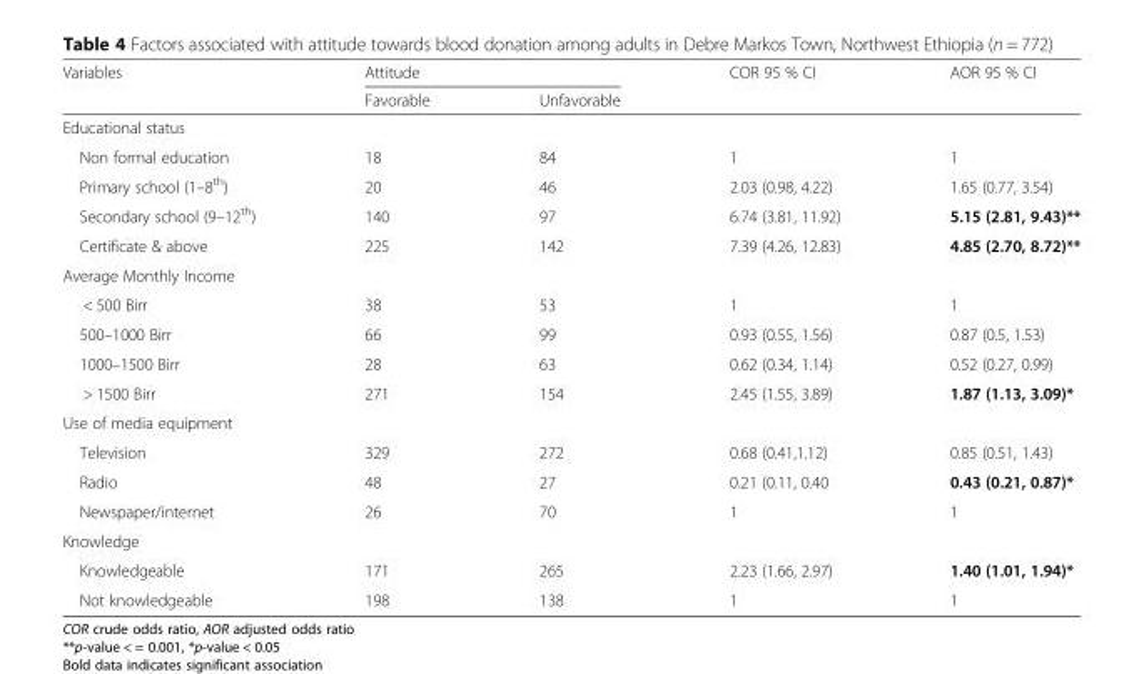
<table><thead><tr><td rowspan="2">Variables</td><td colspan="2">Attitude</td><td rowspan="2">COR 95 % CI</td><td rowspan="2">AOR 95 % CI</td></tr><tr><td>Favorable</td><td>Unfavorable</td></tr></thead><tbody><tr><td colspan="5">Educational status</td></tr><tr><td>Non formal education</td><td>18</td><td>84</td><td>1</td><td>1</td></tr><tr><td>Primary school (1–8<sup>th</sup>)</td><td>20</td><td>46</td><td>2.03 (0.98, 4.22)</td><td>1.65 (0.77, 3.54)</td></tr><tr><td>Secondary school (9–12<sup>th</sup>)</td><td>140</td><td>97</td><td>6.74 (3.81, 11.92)</td><td>5.15 (2.81, 9.43)**</td></tr><tr><td>Certificate &amp; above</td><td>225</td><td>142</td><td>7.39 (4.26, 12.83)</td><td>4.85 (2.70, 8.72)**</td></tr><tr><td colspan="5">Average Monthly Income</td></tr><tr><td>&lt; 500 Birr</td><td>38</td><td>53</td><td>1</td><td>1</td></tr><tr><td>500–1000 Birr</td><td>66</td><td>99</td><td>0.93 (0.55, 1.56)</td><td>0.87 (0.5, 1.53)</td></tr><tr><td>1000–1500 Birr</td><td>28</td><td>63</td><td>0.62 (0.34, 1.14)</td><td>0.52 (0.27, 0.99)</td></tr><tr><td>&gt; 1500 Birr</td><td>271</td><td>154</td><td>2.45 (1.55, 3.89)</td><td>1.87 (1.13, 3.09)*</td></tr><tr><td colspan="5">Use of media equipment</td></tr><tr><td>Television</td><td>329</td><td>272</td><td>0.68 (0.41,1.12)</td><td>0.85 (0.51, 1.43)</td></tr><tr><td>Radio</td><td>48</td><td>27</td><td>0.21 (0.11, 0.40</td><td>0.43 (0.21, 0.87)*</td></tr><tr><td>Newspaper/internet</td><td>26</td><td>70</td><td>1</td><td>1</td></tr><tr><td colspan="5">Knowledge</td></tr><tr><td>Knowledgeable</td><td>171</td><td>265</td><td>2.23 (1.66, 2.97)</td><td>1.40 (1.01, 1.94)*</td></tr><tr><td>Not knowledgeable</td><td>198</td><td>138</td><td>1</td><td>1</td></tr></tbody></table>